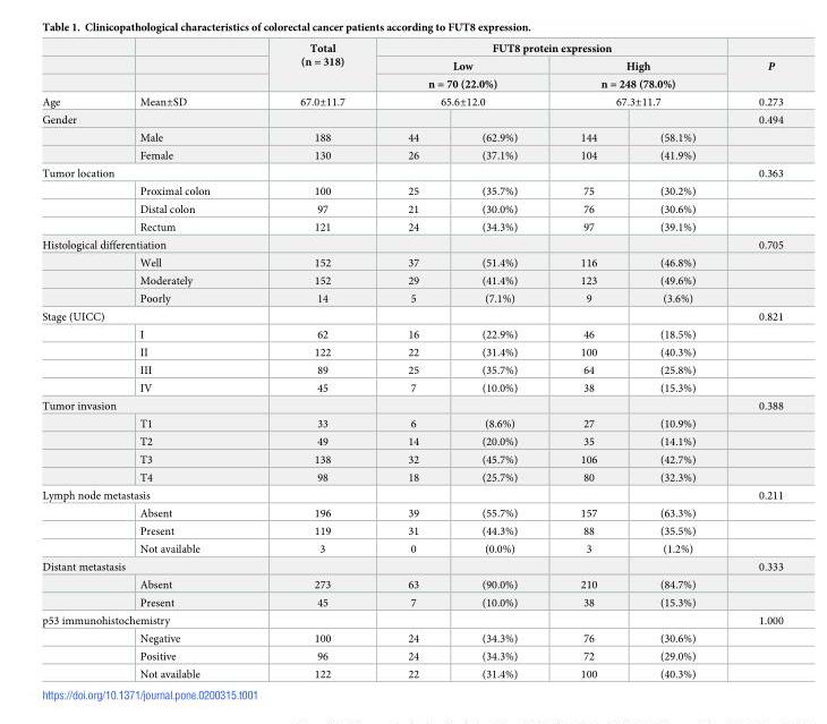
<table><thead><tr><td rowspan="5">Age Gender</td><td rowspan="5">Mean±SD</td><td rowspan="5">Total (n = 318) 67.0±11.7</td><td colspan="4">FUT8 protein expression</td><td rowspan="5">P 0.273 0.494</td></tr><tr><td rowspan="3" colspan="2">Low n = 70 (22.0%) 65.6±12.0</td><td rowspan="3" colspan="2">High n = 248 (78.0%) 67.3±11.7</td></tr><tr></tr><tr></tr><tr><td></td><td></td><td></td><td></td></tr></thead><tbody><tr><td></td><td>Male</td><td>188</td><td>44</td><td>(62.9%)</td><td>144</td><td>(58.1%)</td><td></td></tr><tr><td></td><td>Female</td><td>130</td><td>26</td><td>(37.1%)</td><td>104</td><td>(41.9%)</td><td></td></tr><tr><td colspan="2">Tumor location</td><td></td><td></td><td></td><td></td><td></td><td>0.363</td></tr><tr><td></td><td>Proximal colon</td><td>100</td><td>25</td><td>(35.7%)</td><td>75</td><td>(30.2%)</td><td></td></tr><tr><td></td><td>Distal colon</td><td>97</td><td>21</td><td>(30.0%)</td><td>76</td><td>(30.6%)</td><td></td></tr><tr><td></td><td>Rectum</td><td>121</td><td>24</td><td>(34.3%)</td><td>97</td><td>(39.1%)</td><td></td></tr><tr><td colspan="2">Histological differentiation</td><td></td><td></td><td></td><td></td><td></td><td>0.705</td></tr><tr><td></td><td>Well</td><td>152</td><td>37</td><td>(51.4%)</td><td>116</td><td>(46.8%)</td><td></td></tr><tr><td></td><td>Moderately</td><td>152</td><td>29</td><td>(41.4%)</td><td>123</td><td>(49.6%)</td><td></td></tr><tr><td></td><td>Poorly</td><td>14</td><td>5</td><td>(7.1%)</td><td>9</td><td>(3.6%)</td><td></td></tr><tr><td colspan="2">Stage (UICC)</td><td></td><td></td><td></td><td></td><td></td><td>0.821</td></tr><tr><td></td><td>I</td><td>62</td><td>16</td><td>(22.9%)</td><td>46</td><td>(18.5%)</td><td></td></tr><tr><td></td><td>II</td><td>122</td><td>22</td><td>(31.4%)</td><td>100</td><td>(40.3%)</td><td></td></tr><tr><td></td><td>III</td><td>89</td><td>25</td><td>(35.7%)</td><td>64</td><td>(25.8%)</td><td></td></tr><tr><td></td><td>IV</td><td>45</td><td>7</td><td>(10.0%)</td><td>38</td><td>(15.3%)</td><td></td></tr><tr><td colspan="2">Tumor invasion</td><td></td><td></td><td></td><td></td><td></td><td>0.388</td></tr><tr><td></td><td>T1</td><td>33</td><td>6</td><td>(8.6%)</td><td>27</td><td>(10.9%)</td><td></td></tr><tr><td></td><td>T2</td><td>49</td><td>14</td><td>(20.0%)</td><td>35</td><td>(14.1%)</td><td></td></tr><tr><td></td><td>T3</td><td>138</td><td>32</td><td>(45.7%)</td><td>106</td><td>(42.7%)</td><td></td></tr><tr><td></td><td>T4</td><td>98</td><td>18</td><td>(25.7%)</td><td>80</td><td>(32.3%)</td><td></td></tr><tr><td colspan="2">Lymph node metastasis</td><td></td><td></td><td></td><td></td><td></td><td>0.211</td></tr><tr><td></td><td>Absent</td><td>196</td><td>39</td><td>(55.7%)</td><td>157</td><td>(63.3%)</td><td></td></tr><tr><td></td><td>Present</td><td>119</td><td>31</td><td>(44.3%)</td><td>88</td><td>(35.5%)</td><td></td></tr><tr><td></td><td>Not available</td><td>3</td><td>0</td><td>(0.0%)</td><td>3</td><td>(1.2%)</td><td></td></tr><tr><td colspan="2">Distant metastasis</td><td></td><td></td><td></td><td></td><td></td><td>0.333</td></tr><tr><td></td><td>Absent</td><td>273</td><td>63</td><td>(90.0%)</td><td>210</td><td>(84.7%)</td><td></td></tr><tr><td></td><td>Present</td><td>45</td><td>7</td><td>(10.0%)</td><td>38</td><td>(15.3%)</td><td></td></tr><tr><td colspan="2">p53 immunohistochemistry</td><td></td><td></td><td></td><td></td><td></td><td>1.000</td></tr><tr><td></td><td>Negative</td><td>100</td><td>24</td><td>(34.3%)</td><td>76</td><td>(30.6%)</td><td></td></tr><tr><td></td><td>Positive</td><td>96</td><td>24</td><td>(34.3%)</td><td>72</td><td>(29.0%)</td><td></td></tr><tr><td></td><td>Not available</td><td>122</td><td>22</td><td>(31.4%)</td><td>100</td><td>(40.3%)</td><td></td></tr></tbody></table>